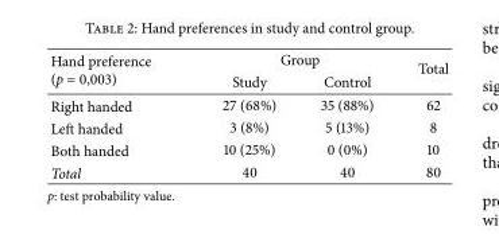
<table><thead><tr><td rowspan="2">Hand preference (p = 0,003)</td><td colspan="2">Group</td><td rowspan="2">Total</td></tr><tr><td>Study</td><td>Control</td></tr></thead><tbody><tr><td>Right handed</td><td>27 (68%)</td><td>35 (88%)</td><td>62</td></tr><tr><td>Left handed</td><td>3 (8%)</td><td>5 (13%)</td><td>8</td></tr><tr><td>Both handed</td><td>10 (25%)</td><td>0 (0%)</td><td>10</td></tr><tr><td>Total</td><td>40</td><td>40</td><td>80</td></tr></tbody></table>